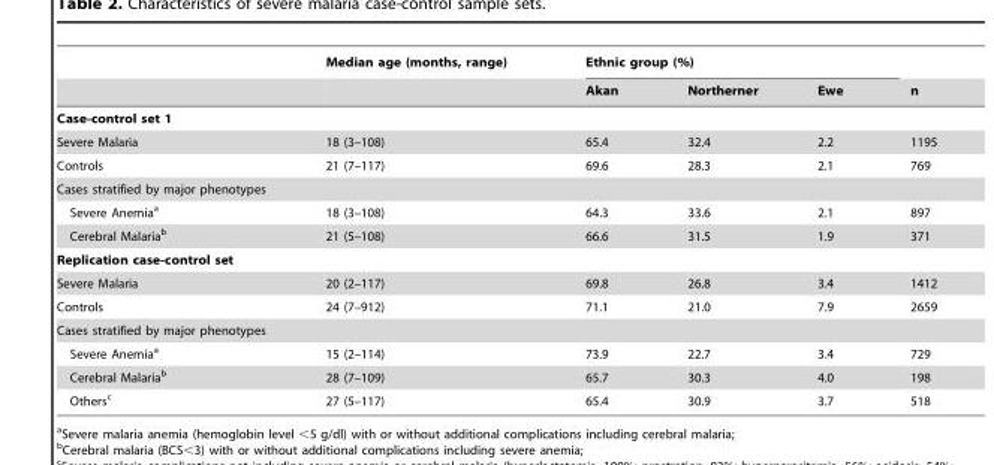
<table><thead><tr><td rowspan="2"></td><td rowspan="2">Median age (months, range)</td><td colspan="3">Ethnic group (%)</td><td rowspan="2">n</td></tr><tr><td>Akan</td><td>Northerner</td><td>Ewe</td></tr></thead><tbody><tr><td colspan="6">Case-control set 1</td></tr><tr><td>Severe Malaria</td><td>18 (3–108)</td><td>65.4</td><td>32.4</td><td>2.2</td><td>1195</td></tr><tr><td>Controls</td><td>21 (7–117)</td><td>69.6</td><td>28.3</td><td>2.1</td><td>769</td></tr><tr><td colspan="6">Cases stratified by major phenotypes</td></tr><tr><td>Severe Anemia<sup>a</sup></td><td>18 (3–108)</td><td>64.3</td><td>33.6</td><td>2.1</td><td>897</td></tr><tr><td>Cerebral Malaria<sup>b</sup></td><td>21 (5–108)</td><td>66.6</td><td>31.5</td><td>1.9</td><td>371</td></tr><tr><td colspan="6">Replication case-control set</td></tr><tr><td>Severe Malaria</td><td>20 (2–117)</td><td>69.8</td><td>26.8</td><td>3.4</td><td>1412</td></tr><tr><td>Controls</td><td>24 (7–912)</td><td>71.1</td><td>21.0</td><td>7.9</td><td>2659</td></tr><tr><td colspan="6">Cases stratified by major phenotypes</td></tr><tr><td>Severe Anemia<sup>a</sup></td><td>15 (2–114)</td><td>73.9</td><td>22.7</td><td>3.4</td><td>729</td></tr><tr><td>Cerebral Malaria<sup>b</sup></td><td>28 (7–109)</td><td>65.7</td><td>30.3</td><td>4.0</td><td>198</td></tr><tr><td>Others<sup>c</sup></td><td>27 (5–117)</td><td>65.4</td><td>30.9</td><td>3.7</td><td>518</td></tr></tbody></table>